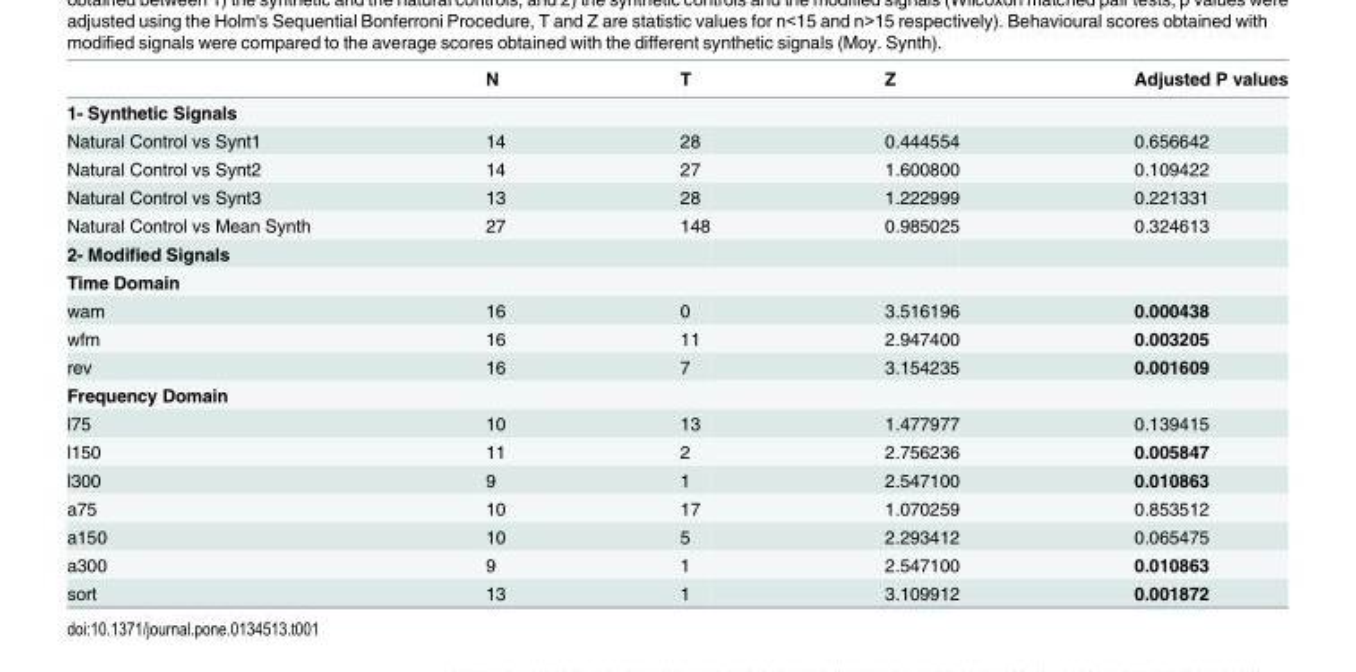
<table><thead><tr><td></td><td>N</td><td>T</td><td>Z</td><td>Adjusted P values</td></tr></thead><tbody><tr><td colspan="5">1- Synthetic Signals</td></tr><tr><td>Natural Control vs Synt1</td><td>14</td><td>28</td><td>0.444554</td><td>0.656642</td></tr><tr><td>Natural Control vs Synt2</td><td>14</td><td>27</td><td>1.600800</td><td>0.109422</td></tr><tr><td>Natural Control vs Synt3</td><td>13</td><td>28</td><td>1.222999</td><td>0.221331</td></tr><tr><td>Natural Control vs Mean Synth</td><td>27</td><td>148</td><td>0.985025</td><td>0.324613</td></tr><tr><td colspan="5">2- Modified Signals</td></tr><tr><td colspan="5">Time Domain</td></tr><tr><td>wam</td><td>16</td><td>0</td><td>3.516196</td><td>0.000438</td></tr><tr><td>wfm</td><td>16</td><td>11</td><td>2.947400</td><td>0.003205</td></tr><tr><td>rev</td><td>16</td><td>7</td><td>3.154235</td><td>0.001609</td></tr><tr><td colspan="5">Frequency Domain</td></tr><tr><td>l75</td><td>10</td><td>13</td><td>1.477977</td><td>0.139415</td></tr><tr><td>l150</td><td>11</td><td>2</td><td>2.756236</td><td>0.005847</td></tr><tr><td>l300</td><td>9</td><td>1</td><td>2.547100</td><td>0.010863</td></tr><tr><td>a75</td><td>10</td><td>17</td><td>1.070259</td><td>0.853512</td></tr><tr><td>a150</td><td>10</td><td>5</td><td>2.293412</td><td>0.065475</td></tr><tr><td>a300</td><td>9</td><td>1</td><td>2.547100</td><td>0.010863</td></tr><tr><td>sort</td><td>13</td><td>1</td><td>3.109912</td><td>0.001872</td></tr></tbody></table>